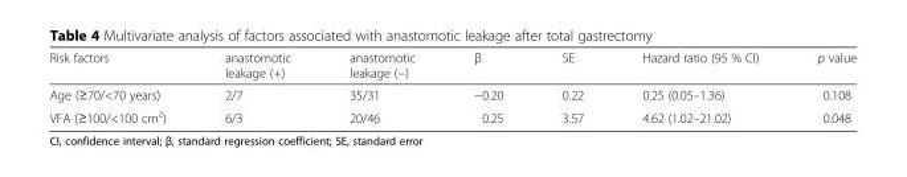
<table><thead><tr><td>Risk factors</td><td>anastomotic leakage (+)</td><td>anastomotic leakage (−)</td><td>β</td><td>SE</td><td>Hazard ratio (95 % CI)</td><td>p value</td></tr></thead><tbody><tr><td>Age (≥70/&lt;70 years)</td><td>2/7</td><td>35/31</td><td>−0.20</td><td>0.22</td><td>0.25 (0.05–1.36)</td><td>0.108</td></tr><tr><td>VFA (≥100/&lt;100 cm<sup>2</sup>)</td><td>6/3</td><td>20/46</td><td>0.25</td><td>3.57</td><td>4.62 (1.02–21.02)</td><td>0.048</td></tr></tbody></table>